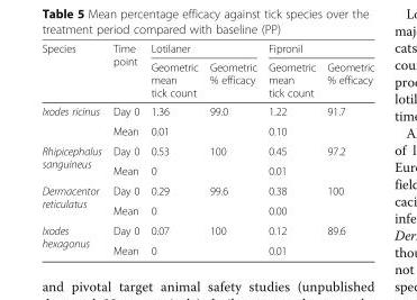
<table><thead><tr><td rowspan="2">Species</td><td rowspan="2">Time point</td><td colspan="2">Lotilaner</td><td colspan="2">Fipronil</td></tr><tr><td>Geometric mean tick count</td><td>Geometric % efficacy</td><td>Geometric mean tick count</td><td>Geometric % efficacy</td></tr></thead><tbody><tr><td rowspan="2">Ixodes ricinus</td><td>Day 0</td><td>1.36</td><td rowspan="2">99.0</td><td>1.22</td><td rowspan="2">91.7</td></tr><tr><td>Mean</td><td>0.01</td><td>0.10</td></tr><tr><td rowspan="2">Rhipicephalus sanguineus</td><td>Day 0</td><td>0.53</td><td rowspan="2">100</td><td>0.45</td><td rowspan="2">97.2</td></tr><tr><td>Mean</td><td>0</td><td>0.01</td></tr><tr><td rowspan="2">Dermacentor reticulatus</td><td>Day 0</td><td>0.29</td><td rowspan="2">99.6</td><td>0.38</td><td rowspan="2">100</td></tr><tr><td>Mean</td><td>0</td><td>0.00</td></tr><tr><td rowspan="2">Ixodes hexagonus</td><td>Day 0</td><td>0.07</td><td rowspan="2">100</td><td>0.12</td><td rowspan="2">89.6</td></tr><tr><td>Mean</td><td>0</td><td>0.01</td></tr></tbody></table>